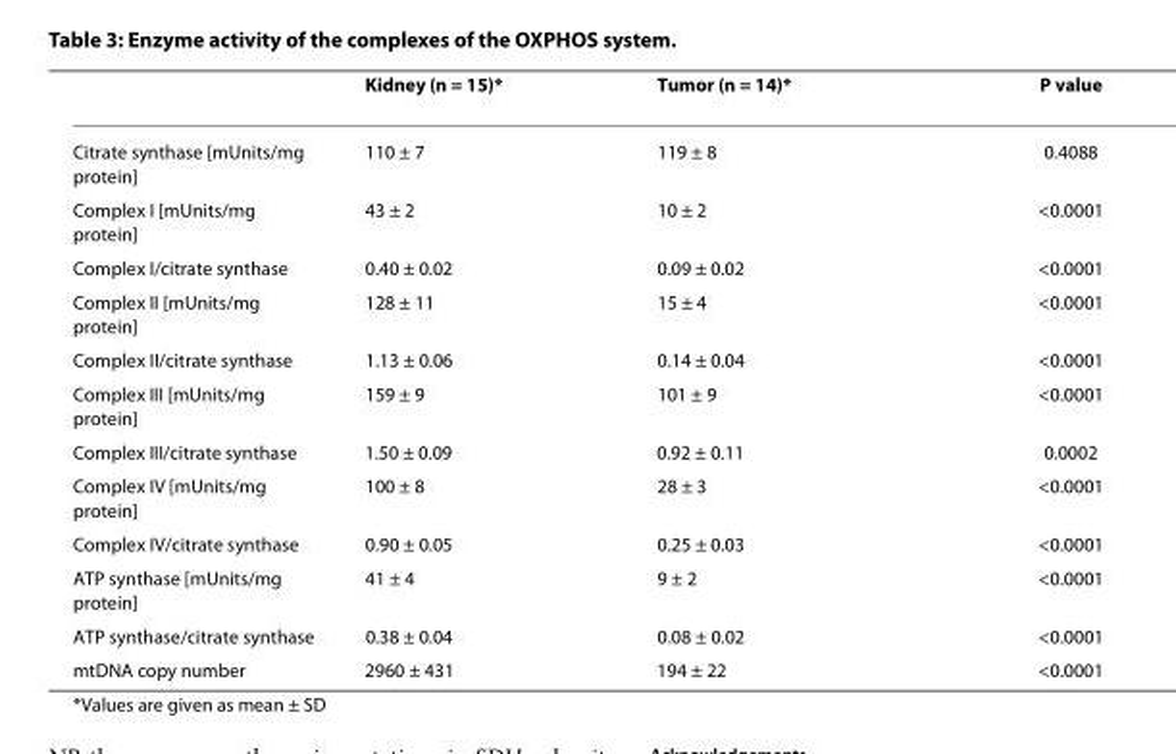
<table><thead><tr><td></td><td>Kidney (n = 15)*</td><td>Tumor (n = 14)*</td><td>P value</td></tr></thead><tbody><tr><td>Citrate synthase [mUnits/mg protein]</td><td>110 ± 7</td><td>119 ± 8</td><td>0.4088</td></tr><tr><td>Complex I [mUnits/mg protein]</td><td>43 ± 2</td><td>10 ± 2</td><td>&lt;0.0001</td></tr><tr><td>Complex I/citrate synthase</td><td>0.40 ± 0.02</td><td>0.09 ± 0.02</td><td>&lt;0.0001</td></tr><tr><td>Complex II [mUnits/mg protein]</td><td>128 ± 11</td><td>15 ± 4</td><td>&lt;0.0001</td></tr><tr><td>Complex II/citrate synthase</td><td>1.13 ± 0.06</td><td>0.14 ± 0.04</td><td>&lt;0.0001</td></tr><tr><td>Complex III [mUnits/mg protein]</td><td>159 ± 9</td><td>101 ± 9</td><td>&lt;0.0001</td></tr><tr><td>Complex III/citrate synthase</td><td>1.50 ± 0.09</td><td>0.92 ± 0.11</td><td>0.0002</td></tr><tr><td>Complex IV [mUnits/mg protein]</td><td>100 ± 8</td><td>28 ± 3</td><td>&lt;0.0001</td></tr><tr><td>Complex IV/citrate synthase</td><td>0.90 ± 0.05</td><td>0.25 ± 0.03</td><td>&lt;0.0001</td></tr><tr><td>ATP synthase [mUnits/mg protein]</td><td>41 ± 4</td><td>9 ± 2</td><td>&lt;0.0001</td></tr><tr><td>ATP synthase/citrate synthase</td><td>0.38 ± 0.04</td><td>0.08 ± 0.02</td><td>&lt;0.0001</td></tr><tr><td>mtDNA copy number</td><td>2960 ± 431</td><td>194 ± 22</td><td>&lt;0.0001</td></tr></tbody></table>